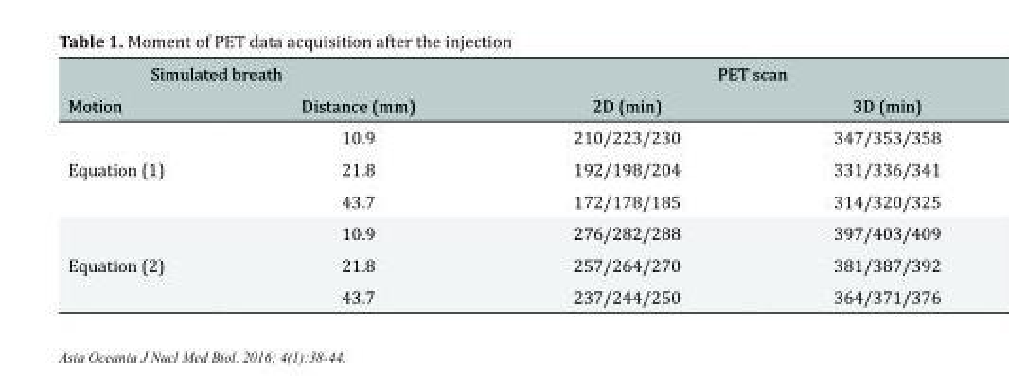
<table><thead><tr><td colspan="2">Simulated breath</td><td colspan="2">PET scan</td></tr><tr><td>Motion</td><td>Distance (mm)</td><td>2D (min)</td><td>3D (min)</td></tr></thead><tbody><tr><td rowspan="3">Equation (1)</td><td>10.9</td><td>210/223/230</td><td>347/353/358</td></tr><tr><td>21.8</td><td>192/198/204</td><td>331/336/341</td></tr><tr><td>43.7</td><td>172/178/185</td><td>314/320/325</td></tr><tr><td rowspan="3">Equation (2)</td><td>10.9</td><td>276/282/288</td><td>397/403/409</td></tr><tr><td>21.8</td><td>257/264/270</td><td>381/387/392</td></tr><tr><td>43.7</td><td>237/244/250</td><td>364/371/376</td></tr></tbody></table>